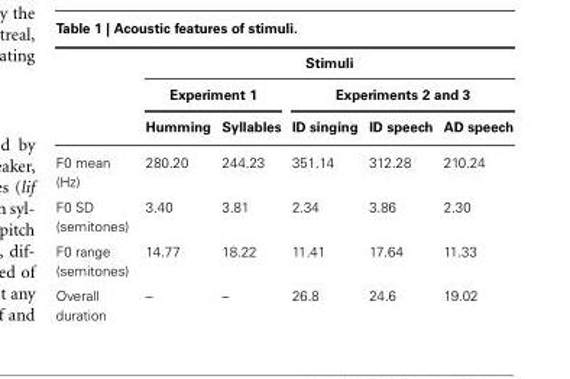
<table><thead><tr><td rowspan="3"></td><td colspan="5">Stimuli</td></tr><tr><td colspan="2">Experiment 1</td><td colspan="3">Experiments 2 and 3</td></tr><tr><td>Humming</td><td>Syllables</td><td>ID singing</td><td>ID speech</td><td>AD speech</td></tr></thead><tbody><tr><td>F0 mean (Hz)</td><td>280.20</td><td>244.23</td><td>351.14</td><td>312.28</td><td>210.24</td></tr><tr><td>F0 SD (semitones)</td><td>3.40</td><td>3.81</td><td>2.34</td><td>3.86</td><td>2.30</td></tr><tr><td>F0 range (semitones)</td><td>14.77</td><td>18.22</td><td>11.41</td><td>17.64</td><td>11.33</td></tr><tr><td>Overall duration</td><td>–</td><td>–</td><td>26.8</td><td>24.6</td><td>19.02</td></tr></tbody></table>